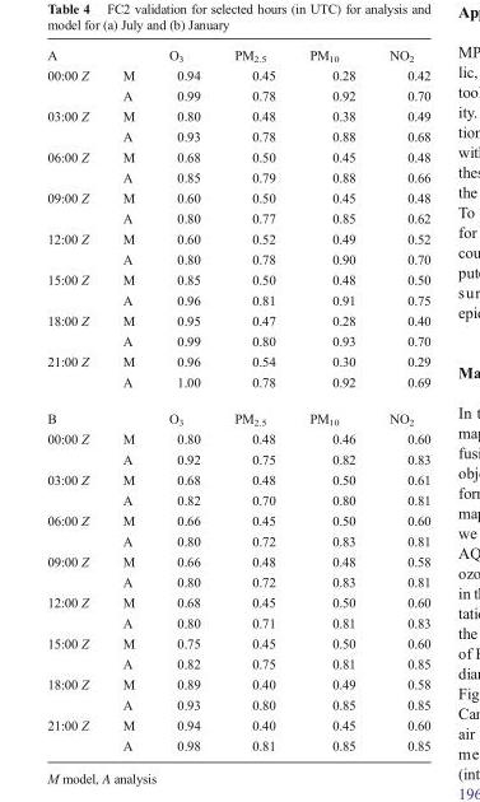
<table><tbody><tr><td>A</td><td></td><td>O<sub>3</sub></td><td>PM<sub>2.5</sub></td><td>PM<sub>10</sub></td><td>NO<sub>2</sub></td></tr><tr><td rowspan="2">00:00 Z</td><td>M</td><td>0.94</td><td>0.45</td><td>0.28</td><td>0.42</td></tr><tr><td>A</td><td>0.99</td><td>0.78</td><td>0.92</td><td>0.70</td></tr><tr><td rowspan="2">03:00 Z</td><td>M</td><td>0.80</td><td>0.48</td><td>0.38</td><td>0.49</td></tr><tr><td>A</td><td>0.93</td><td>0.78</td><td>0.88</td><td>0.68</td></tr><tr><td rowspan="2">06:00 Z</td><td>M</td><td>0.68</td><td>0.50</td><td>0.45</td><td>0.48</td></tr><tr><td>A</td><td>0.85</td><td>0.79</td><td>0.88</td><td>0.66</td></tr><tr><td rowspan="2">09:00 Z</td><td>M</td><td>0.60</td><td>0.50</td><td>0.45</td><td>0.48</td></tr><tr><td>A</td><td>0.80</td><td>0.77</td><td>0.85</td><td>0.62</td></tr><tr><td rowspan="2">12:00 Z</td><td>M</td><td>0.60</td><td>0.52</td><td>0.49</td><td>0.52</td></tr><tr><td>A</td><td>0.80</td><td>0.78</td><td>0.90</td><td>0.70</td></tr><tr><td rowspan="2">15:00 Z</td><td>M</td><td>0.85</td><td>0.50</td><td>0.48</td><td>0.50</td></tr><tr><td>A</td><td>0.96</td><td>0.81</td><td>0.91</td><td>0.75</td></tr><tr><td rowspan="2">18:00 Z</td><td>M</td><td>0.95</td><td>0.47</td><td>0.28</td><td>0.40</td></tr><tr><td>A</td><td>0.99</td><td>0.80</td><td>0.93</td><td>0.70</td></tr><tr><td rowspan="2">21:00 Z</td><td>M</td><td>0.96</td><td>0.54</td><td>0.30</td><td>0.29</td></tr><tr><td>A</td><td>1.00</td><td>0.78</td><td>0.92</td><td>0.69</td></tr><tr><td>B</td><td></td><td>O<sub>3</sub></td><td>PM<sub>2.5</sub></td><td>PM<sub>10</sub></td><td>NO<sub>2</sub></td></tr><tr><td rowspan="2">00:00 Z</td><td>M</td><td>0.80</td><td>0.48</td><td>0.46</td><td>0.60</td></tr><tr><td>A</td><td>0.92</td><td>0.75</td><td>0.82</td><td>0.83</td></tr><tr><td rowspan="2">03:00 Z</td><td>M</td><td>0.68</td><td>0.48</td><td>0.50</td><td>0.61</td></tr><tr><td>A</td><td>0.82</td><td>0.70</td><td>0.80</td><td>0.81</td></tr><tr><td rowspan="2">06:00 Z</td><td>M</td><td>0.66</td><td>0.45</td><td>0.50</td><td>0.60</td></tr><tr><td>A</td><td>0.80</td><td>0.72</td><td>0.83</td><td>0.81</td></tr><tr><td rowspan="2">09:00 Z</td><td>M</td><td>0.66</td><td>0.48</td><td>0.48</td><td>0.58</td></tr><tr><td>A</td><td>0.80</td><td>0.72</td><td>0.83</td><td>0.81</td></tr><tr><td rowspan="2">12:00 Z</td><td>M</td><td>0.68</td><td>0.45</td><td>0.50</td><td>0.60</td></tr><tr><td>A</td><td>0.80</td><td>0.71</td><td>0.81</td><td>0.83</td></tr><tr><td rowspan="2">15:00 Z</td><td>M</td><td>0.75</td><td>0.45</td><td>0.50</td><td>0.60</td></tr><tr><td>A</td><td>0.82</td><td>0.75</td><td>0.81</td><td>0.85</td></tr><tr><td rowspan="2">18:00 Z</td><td>M</td><td>0.89</td><td>0.40</td><td>0.49</td><td>0.58</td></tr><tr><td>A</td><td>0.93</td><td>0.80</td><td>0.85</td><td>0.85</td></tr><tr><td rowspan="2">21:00 Z</td><td>M</td><td>0.94</td><td>0.40</td><td>0.45</td><td>0.60</td></tr><tr><td>A</td><td>0.98</td><td>0.81</td><td>0.85</td><td>0.85</td></tr></tbody></table>